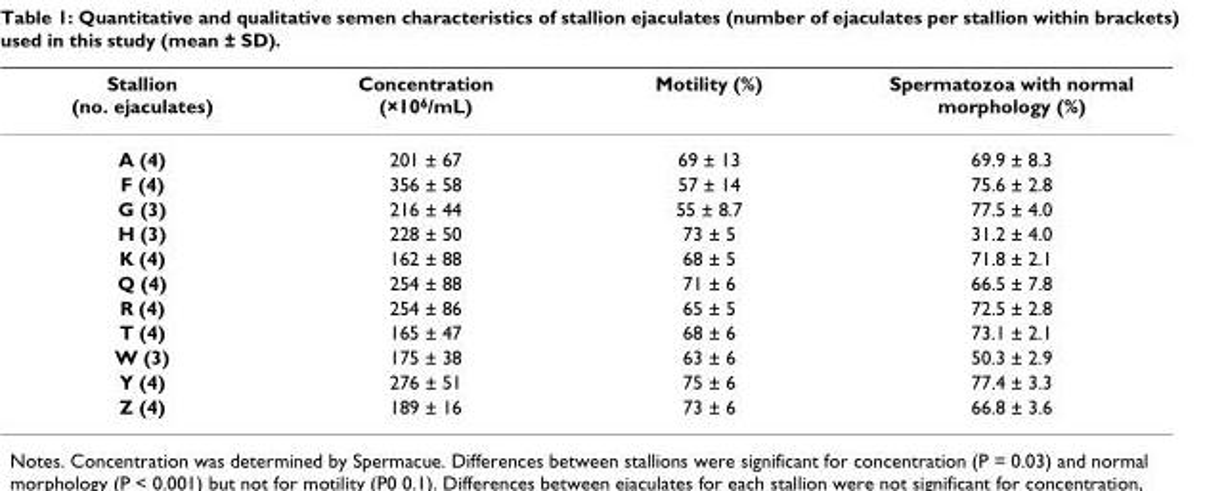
<table><thead><tr><td>Stallion (no. ejaculates)</td><td>Concentration (×10<sup>6</sup>/mL)</td><td>Motility (%)</td><td>Spermatozoa with normal morphology (%)</td></tr></thead><tbody><tr><td>A (4)</td><td>201 ± 67</td><td>69 ± 13</td><td>69.9 ± 8.3</td></tr><tr><td>F (4)</td><td>356 ± 58</td><td>57 ± 14</td><td>75.6 ± 2.8</td></tr><tr><td>G (3)</td><td>216 ± 44</td><td>55 ± 8.7</td><td>77.5 ± 4.0</td></tr><tr><td>H (3)</td><td>228 ± 50</td><td>73 ± 5</td><td>31.2 ± 4.0</td></tr><tr><td>K (4)</td><td>162 ± 88</td><td>68 ± 5</td><td>71.8 ± 2.1</td></tr><tr><td>Q (4)</td><td>254 ± 88</td><td>71 ± 6</td><td>66.5 ± 7.8</td></tr><tr><td>R (4)</td><td>254 ± 86</td><td>65 ± 5</td><td>72.5 ± 2.8</td></tr><tr><td>T (4)</td><td>165 ± 47</td><td>68 ± 6</td><td>73.1 ± 2.1</td></tr><tr><td>W (3)</td><td>175 ± 38</td><td>63 ± 6</td><td>50.3 ± 2.9</td></tr><tr><td>Y (4)</td><td>276 ± 51</td><td>75 ± 6</td><td>77.4 ± 3.3</td></tr><tr><td>Z (4)</td><td>189 ± 16</td><td>73 ± 6</td><td>66.8 ± 3.6</td></tr></tbody></table>